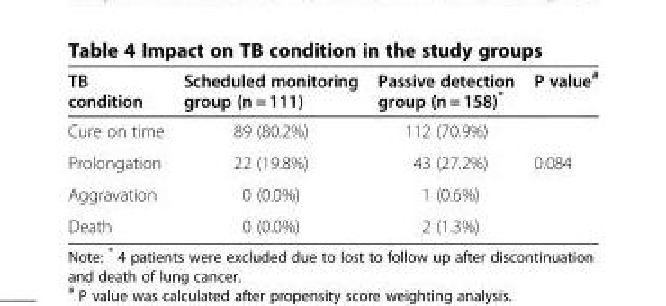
<table><thead><tr><td>TB condition</td><td>Scheduled monitoring group (n = 111)</td><td>Passive detection group (n = 158)*</td><td>P value<sup>#</sup></td></tr></thead><tbody><tr><td>Cure on time</td><td>89 (80.2%)</td><td>112 (70.9%)</td><td></td></tr><tr><td>Prolongation</td><td>22 (19.8%)</td><td>43 (27.2%)</td><td>0.084</td></tr><tr><td>Aggravation</td><td>0 (0.0%)</td><td>1 (0.6%)</td><td></td></tr><tr><td>Death</td><td>0 (0.0%)</td><td>2 (1.3%)</td><td></td></tr></tbody></table>